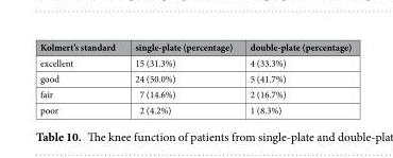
<table><thead><tr><td>Kolmert’s standard</td><td>single-plate (percentage)</td><td>double-plate (percentage)</td></tr></thead><tbody><tr><td>excellent</td><td>15 (31.3%)</td><td>4 (33.3%)</td></tr><tr><td>good</td><td>24 (50.0%)</td><td>5 (41.7%)</td></tr><tr><td>fair</td><td>7 (14.6%)</td><td>2 (16.7%)</td></tr><tr><td>poor</td><td>2 (4.2%)</td><td>1 (8.3%)</td></tr></tbody></table>